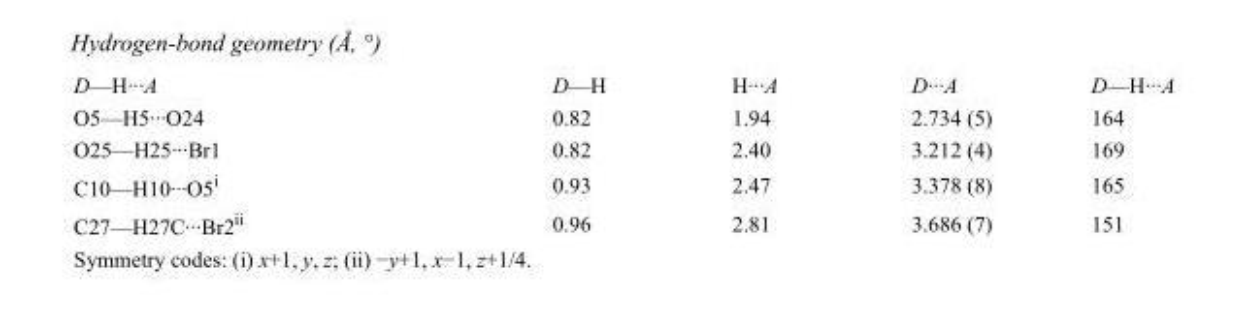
<table><tbody><tr><td>D—H···A</td><td>D—H</td><td>H···A</td><td>D···A</td><td>D—H···A</td></tr><tr><td>O5—H5···O24</td><td>0.82</td><td>1.94</td><td>2.734 (5)</td><td>164</td></tr><tr><td>O25—H25···Br1</td><td>0.82</td><td>2.40</td><td>3.212 (4)</td><td>169</td></tr><tr><td>C10—H10···O5<sup>i</sup></td><td>0.93</td><td>2.47</td><td>3.378 (8)</td><td>165</td></tr><tr><td>C27—H27C···Br2<sup>ii</sup></td><td>0.96</td><td>2.81</td><td>3.686 (7)</td><td>151</td></tr></tbody></table>